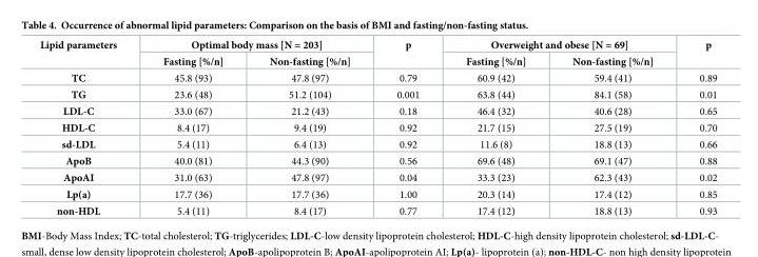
<table><thead><tr><td rowspan="2">Lipid parameters</td><td colspan="2">Optimal body mass [N = 203]</td><td rowspan="2">p</td><td colspan="2">Overweight and obese [N = 69]</td><td rowspan="2">p</td></tr><tr><td>Fasting [%/n]</td><td>Non-fasting [%/n]</td><td>Fasting [%/n]</td><td>Non-fasting [%/n]</td></tr></thead><tbody><tr><td>TC</td><td>45.8 (93)</td><td>47.8 (97)</td><td>0.79</td><td>60.9 (42)</td><td>59.4 (41)</td><td>0.89</td></tr><tr><td>TG</td><td>23.6 (48)</td><td>51.2 (104)</td><td>0.001</td><td>63.8 (44)</td><td>84.1 (58)</td><td>0.01</td></tr><tr><td>LDL-C</td><td>33.0 (67)</td><td>21.2 (43)</td><td>0.18</td><td>46.4 (32)</td><td>40.6 (28)</td><td>0.65</td></tr><tr><td>HDL-C</td><td>8.4 (17)</td><td>9.4 (19)</td><td>0.92</td><td>21.7 (15)</td><td>27.5 (19)</td><td>0.70</td></tr><tr><td>sd-LDL</td><td>5.4 (11)</td><td>6.4 (13)</td><td>0.92</td><td>11.6 (8)</td><td>18.8 (13)</td><td>0.66</td></tr><tr><td>ApoB</td><td>40.0 (81)</td><td>44.3 (90)</td><td>0.56</td><td>69.6 (48)</td><td>69.1 (47)</td><td>0.88</td></tr><tr><td>ApoAI</td><td>31.0 (63)</td><td>47.8 (97)</td><td>0.04</td><td>33.3 (23)</td><td>62.3 (43)</td><td>0.02</td></tr><tr><td>Lp(a)</td><td>17.7 (36)</td><td>17.7 (36)</td><td>1.00</td><td>20.3 (14)</td><td>17.4 (12)</td><td>0.85</td></tr><tr><td>non-HDL</td><td>5.4 (11)</td><td>8.4 (17)</td><td>0.77</td><td>17.4 (12)</td><td>18.8 (13)</td><td>0.93</td></tr></tbody></table>